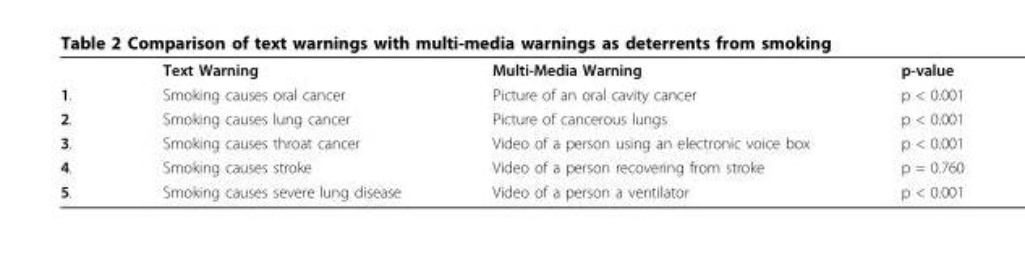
<table><thead><tr><td></td><td>Text Warning</td><td>Multi-Media Warning</td><td>p-value</td></tr></thead><tbody><tr><td>1.</td><td>Smoking causes oral cancer</td><td>Picture of an oral cavity cancer</td><td>p &lt; 0.001</td></tr><tr><td>2.</td><td>Smoking causes lung cancer</td><td>Picture of cancerous lungs</td><td>p &lt; 0.001</td></tr><tr><td>3.</td><td>Smoking causes throat cancer</td><td>Video of a person using an electronic voice box</td><td>p &lt; 0.001</td></tr><tr><td>4.</td><td>Smoking causes stroke</td><td>Video of a person recovering from stroke</td><td>p = 0.760</td></tr><tr><td>5.</td><td>Smoking causes severe lung disease</td><td>Video of a person a ventilator</td><td>p &lt; 0.001</td></tr></tbody></table>